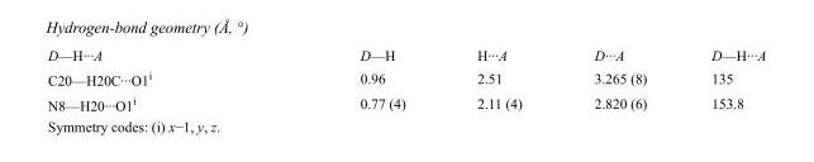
<table><tbody><tr><td>D—H···A</td><td>D—H</td><td>H···A</td><td>D···A</td><td>D—H···A</td></tr><tr><td>C20—H20C···O1<sup>i</sup></td><td>0.96</td><td>2.51</td><td>3.265 (8)</td><td>135</td></tr><tr><td>N8—H20···O1<sup>i</sup></td><td>0.77 (4)</td><td>2.11 (4)</td><td>2.820 (6)</td><td>153.8</td></tr></tbody></table>